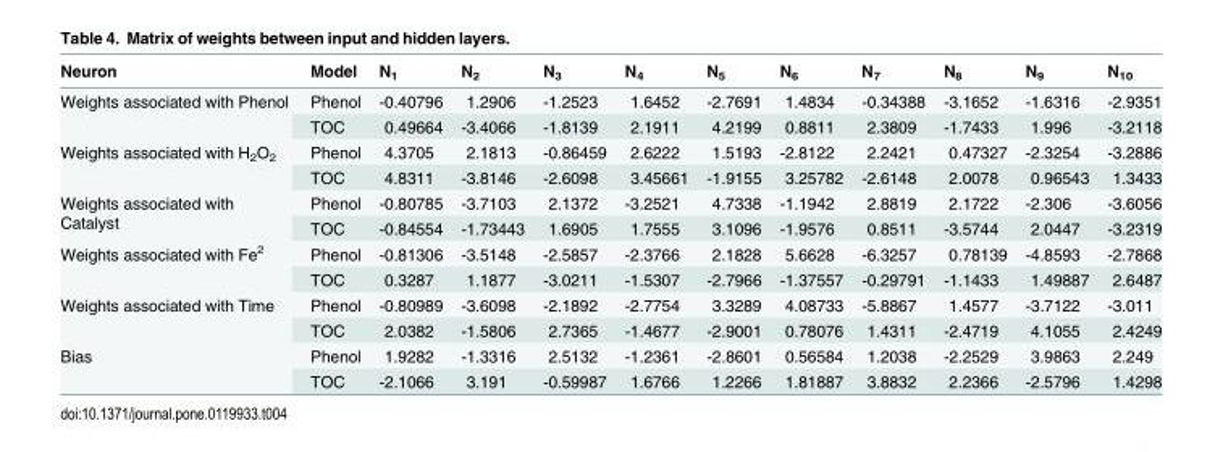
<table><thead><tr><td>Neuron</td><td>Model</td><td>N<sub>1</sub></td><td>N<sub>2</sub></td><td>N<sub>3</sub></td><td>N<sub>4</sub></td><td>N<sub>5</sub></td><td>N<sub>6</sub></td><td>N<sub>7</sub></td><td>N<sub>8</sub></td><td>N<sub>9</sub></td><td>N<sub>10</sub></td></tr></thead><tbody><tr><td rowspan="2">Weights associated with Phenol</td><td>Phenol</td><td>-0.40796</td><td>1.2906</td><td>-1.2523</td><td>1.6452</td><td>-2.7691</td><td>1.4834</td><td>-0.34388</td><td>-3.1652</td><td>-1.6316</td><td>-2.9351</td></tr><tr><td>TOC</td><td>0.49664</td><td>-3.4066</td><td>-1.8139</td><td>2.1911</td><td>4.2199</td><td>0.8811</td><td>2.3809</td><td>-1.7433</td><td>1.996</td><td>-3.2118</td></tr><tr><td rowspan="2">Weights associated with H<sub>2</sub>O<sub>2</sub></td><td>Phenol</td><td>4.3705</td><td>2.1813</td><td>-0.86459</td><td>2.6222</td><td>1.5193</td><td>-2.8122</td><td>2.2421</td><td>0.47327</td><td>-2.3254</td><td>-3.2886</td></tr><tr><td>TOC</td><td>4.8311</td><td>-3.8146</td><td>-2.6098</td><td>3.45661</td><td>-1.9155</td><td>3.25782</td><td>-2.6148</td><td>2.0078</td><td>0.96543</td><td>1.3433</td></tr><tr><td rowspan="2">Weights associated with Catalyst</td><td>Phenol</td><td>-0.80785</td><td>-3.7103</td><td>2.1372</td><td>-3.2521</td><td>4.7338</td><td>-1.1942</td><td>2.8819</td><td>2.1722</td><td>-2.306</td><td>-3.6056</td></tr><tr><td>TOC</td><td>-0.84554</td><td>-1.73443</td><td>1.6905</td><td>1.7555</td><td>3.1096</td><td>-1.9576</td><td>0.8511</td><td>-3.5744</td><td>2.0447</td><td>-3.2319</td></tr><tr><td rowspan="2">Weights associated with Fe<sup>2</sup></td><td>Phenol</td><td>-0.81306</td><td>-3.5148</td><td>-2.5857</td><td>-2.3766</td><td>2.1828</td><td>5.6628</td><td>-6.3257</td><td>0.78139</td><td>-4.8593</td><td>-2.7868</td></tr><tr><td>TOC</td><td>0.3287</td><td>1.1877</td><td>-3.0211</td><td>-1.5307</td><td>-2.7966</td><td>-1.37557</td><td>-0.29791</td><td>-1.1433</td><td>1.49887</td><td>2.6487</td></tr><tr><td rowspan="2">Weights associated with Time</td><td>Phenol</td><td>-0.80989</td><td>-3.6098</td><td>-2.1892</td><td>-2.7754</td><td>3.3289</td><td>4.08733</td><td>-5.8867</td><td>1.4577</td><td>-3.7122</td><td>-3.011</td></tr><tr><td>TOC</td><td>2.0382</td><td>-1.5806</td><td>2.7365</td><td>-1.4677</td><td>-2.9001</td><td>0.78076</td><td>1.4311</td><td>-2.4719</td><td>4.1055</td><td>2.4249</td></tr><tr><td rowspan="2">Bias</td><td>Phenol</td><td>1.9282</td><td>-1.3316</td><td>2.5132</td><td>-1.2361</td><td>-2.8601</td><td>0.56584</td><td>1.2038</td><td>-2.2529</td><td>3.9863</td><td>2.249</td></tr><tr><td>TOC</td><td>-2.1066</td><td>3.191</td><td>-0.59987</td><td>1.6766</td><td>1.2266</td><td>1.81887</td><td>3.8832</td><td>2.2366</td><td>-2.5796</td><td>1.4298</td></tr></tbody></table>